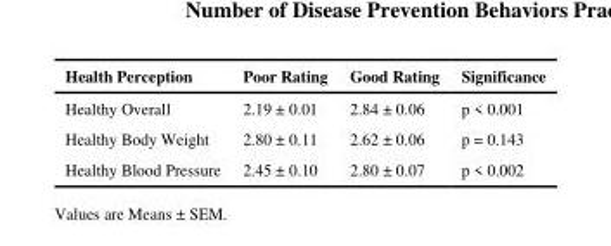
<table><thead><tr><td>Health Perception</td><td>Poor Rating</td><td>Good Rating</td><td>Significance</td></tr></thead><tbody><tr><td>Healthy Overall</td><td>2.19 ± 0.01</td><td>2.84 ± 0.06</td><td>p &lt; 0.001</td></tr><tr><td>Healthy Body Weight</td><td>2.80 ± 0.11</td><td>2.62 ± 0.06</td><td>p = 0.143</td></tr><tr><td>Healthy Blood Pressure</td><td>2.45 ± 0.10</td><td>2.80 ± 0.07</td><td>p &lt; 0.002</td></tr></tbody></table>